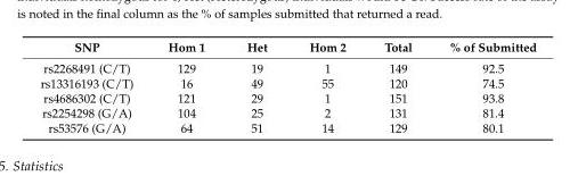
<table><thead><tr><td>SNP</td><td>Hom 1</td><td>Het</td><td>Hom 2</td><td>Total</td><td>% of Submitted</td></tr></thead><tbody><tr><td>rs2268491 (C/T)</td><td>129</td><td>19</td><td>1</td><td>149</td><td>92.5</td></tr><tr><td>rs13316193 (C/T)</td><td>16</td><td>49</td><td>55</td><td>120</td><td>74.5</td></tr><tr><td>rs4686302 (C/T)</td><td>121</td><td>29</td><td>1</td><td>151</td><td>93.8</td></tr><tr><td>rs2254298 (G/A)</td><td>104</td><td>25</td><td>2</td><td>131</td><td>81.4</td></tr><tr><td>rs53576 (G/A)</td><td>64</td><td>51</td><td>14</td><td>129</td><td>80.1</td></tr></tbody></table>